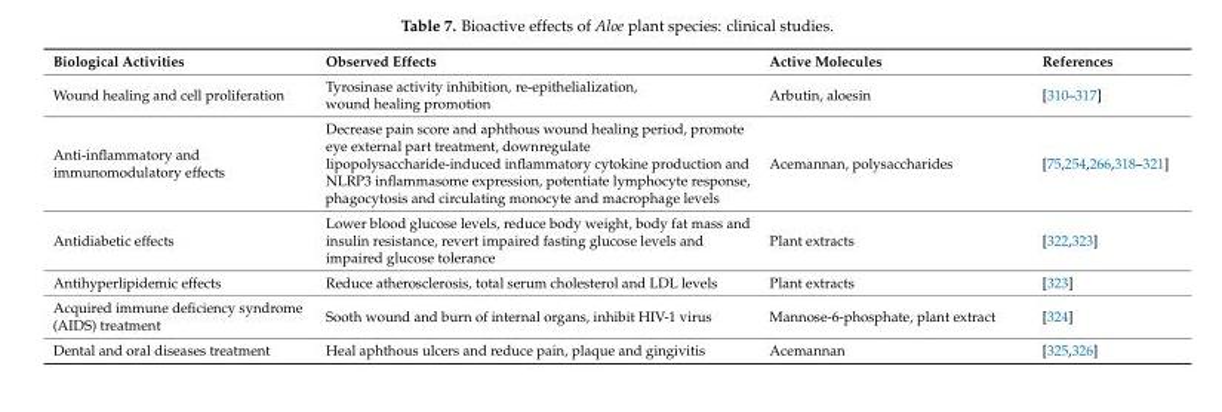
<table><thead><tr><td>Biological Activities</td><td>Observed Effects</td><td>Active Molecules</td><td>References</td></tr></thead><tbody><tr><td>Wound healing and cell proliferation</td><td>Tyrosinase activity inhibition, re-epithelialization, wound healing promotion</td><td>Arbutin, aloesin</td><td>[310–317]</td></tr><tr><td>Anti-inflammatory and immunomodulatory effects</td><td>Decrease pain score and aphthous wound healing period, promote eye external part treatment, downregulate lipopolysaccharide-induced inflammatory cytokine production and NLRP3 inflammasome expression, potentiate lymphocyte response, phagocytosis and circulating monocyte and macrophage levels</td><td>Acemannan, polysaccharides</td><td>[75,254,266,318–321]</td></tr><tr><td>Antidiabetic effects</td><td>Lower blood glucose levels, reduce body weight, body fat mass and insulin resistance, revert impaired fasting glucose levels and impaired glucose tolerance</td><td>Plant extracts</td><td>[322,323]</td></tr><tr><td>Antihyperlipidemic effects</td><td>Reduce atherosclerosis, total serum cholesterol and LDL levels</td><td>Plant extracts</td><td>[323]</td></tr><tr><td>Acquired immune deficiency syndrome (AIDS) treatment</td><td>Sooth wound and burn of internal organs, inhibit HIV-1 virus</td><td>Mannose-6-phosphate, plant extract</td><td>[324]</td></tr><tr><td>Dental and oral diseases treatment</td><td>Heal aphthous ulcers and reduce pain, plaque and gingivitis</td><td>Acemannan</td><td>[325,326]</td></tr></tbody></table>